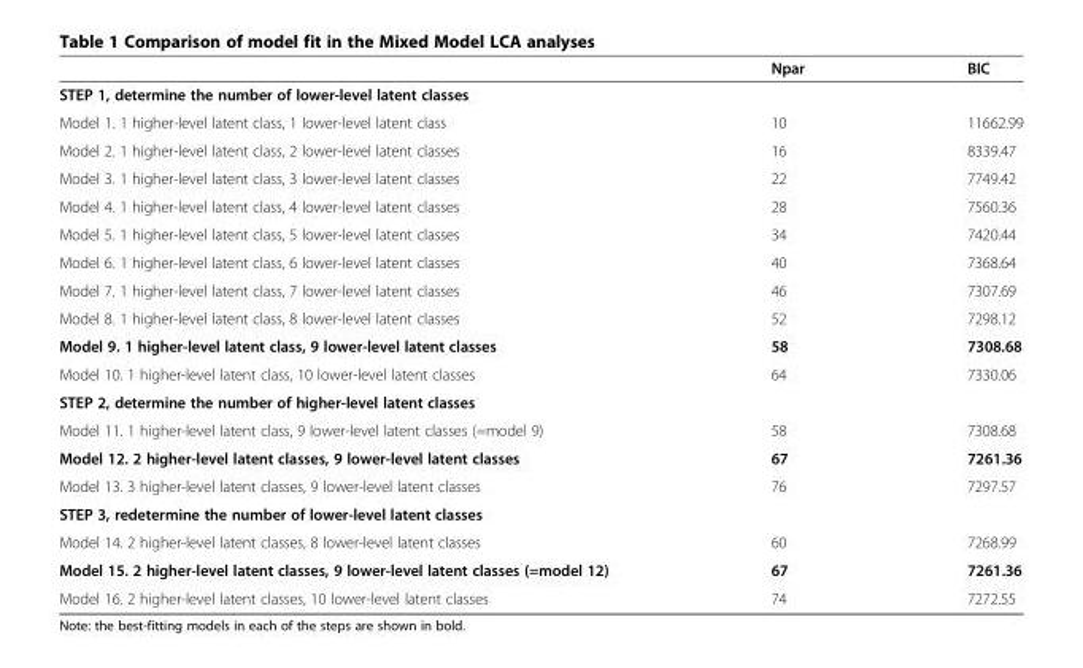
<table><thead><tr><td></td><td>Npar</td><td>BIC</td></tr></thead><tbody><tr><td colspan="3">STEP 1, determine the number of lower-level latent classes</td></tr><tr><td>Model 1. 1 higher-level latent class, 1 lower-level latent class</td><td>10</td><td>11662.99</td></tr><tr><td>Model 2. 1 higher-level latent class, 2 lower-level latent classes</td><td>16</td><td>8339.47</td></tr><tr><td>Model 3. 1 higher-level latent class, 3 lower-level latent classes</td><td>22</td><td>7749.42</td></tr><tr><td>Model 4. 1 higher-level latent class, 4 lower-level latent classes</td><td>28</td><td>7560.36</td></tr><tr><td>Model 5. 1 higher-level latent class, 5 lower-level latent classes</td><td>34</td><td>7420.44</td></tr><tr><td>Model 6. 1 higher-level latent class, 6 lower-level latent classes</td><td>40</td><td>7368.64</td></tr><tr><td>Model 7. 1 higher-level latent class, 7 lower-level latent classes</td><td>46</td><td>7307.69</td></tr><tr><td>Model 8. 1 higher-level latent class, 8 lower-level latent classes</td><td>52</td><td>7298.12</td></tr><tr><td>Model 9. 1 higher-level latent class, 9 lower-level latent classes</td><td>58</td><td>7308.68</td></tr><tr><td>Model 10. 1 higher-level latent class, 10 lower-level latent classes</td><td>64</td><td>7330.06</td></tr><tr><td colspan="3">STEP 2, determine the number of higher-level latent classes</td></tr><tr><td>Model 11. 1 higher-level latent class, 9 lower-level latent classes (=model 9)</td><td>58</td><td>7308.68</td></tr><tr><td>Model 12. 2 higher-level latent classes, 9 lower-level latent classes</td><td>67</td><td>7261.36</td></tr><tr><td>Model 13. 3 higher-level latent classes, 9 lower-level latent classes</td><td>76</td><td>7297.57</td></tr><tr><td colspan="3">STEP 3, redetermine the number of lower-level latent classes</td></tr><tr><td>Model 14. 2 higher-level latent classes, 8 lower-level latent classes</td><td>60</td><td>7268.99</td></tr><tr><td>Model 15. 2 higher-level latent classes, 9 lower-level latent classes (=model 12)</td><td>67</td><td>7261.36</td></tr><tr><td>Model 16. 2 higher-level latent classes, 10 lower-level latent classes</td><td>74</td><td>7272.55</td></tr></tbody></table>